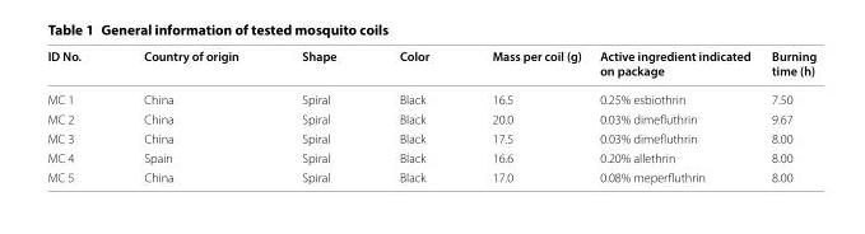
<table><thead><tr><td>ID No.</td><td>Country of origin</td><td>Shape</td><td>Color</td><td>Mass per coil (g)</td><td>Active ingredient indicated on package</td><td>Burning time (h)</td></tr></thead><tbody><tr><td>MC 1</td><td>China</td><td>Spiral</td><td>Black</td><td>16.5</td><td>0.25% esbiothrin</td><td>7.50</td></tr><tr><td>MC 2</td><td>China</td><td>Spiral</td><td>Black</td><td>20.0</td><td>0.03% dimefluthrin</td><td>9.67</td></tr><tr><td>MC 3</td><td>China</td><td>Spiral</td><td>Black</td><td>17.5</td><td>0.03% dimefluthrin</td><td>8.00</td></tr><tr><td>MC 4</td><td>Spain</td><td>Spiral</td><td>Black</td><td>16.6</td><td>0.20% allethrin</td><td>8.00</td></tr><tr><td>MC 5</td><td>China</td><td>Spiral</td><td>Black</td><td>17.0</td><td>0.08% meperfluthrin</td><td>8.00</td></tr></tbody></table>